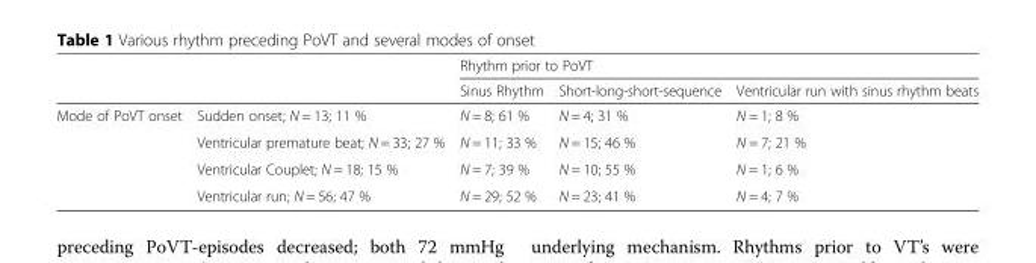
<table><thead><tr><td rowspan="2"></td><td rowspan="2"></td><td colspan="3">Rhythm prior to PoVT</td></tr><tr><td>Sinus Rhythm</td><td>Short-long-short-sequence</td><td>Ventricular run with sinus rhythm beats</td></tr></thead><tbody><tr><td rowspan="4">Mode of PoVT onset</td><td>Sudden onset; N = 13; 11 %</td><td>N = 8; 61 %</td><td>N = 4; 31 %</td><td>N = 1; 8 %</td></tr><tr><td>Ventricular premature beat; N = 33; 27 %</td><td>N = 11; 33 %</td><td>N = 15; 46 %</td><td>N = 7; 21 %</td></tr><tr><td>Ventricular Couplet; N = 18; 15 %</td><td>N = 7; 39 %</td><td>N = 10; 55 %</td><td>N = 1; 6 %</td></tr><tr><td>Ventricular run; N = 56; 47 %</td><td>N = 29; 52 %</td><td>N = 23; 41 %</td><td>N = 4; 7 %</td></tr></tbody></table>